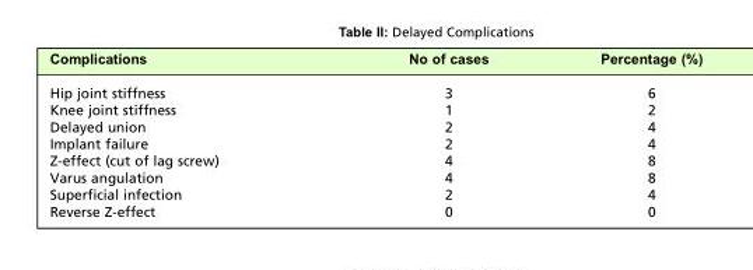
<table><thead><tr><td>Complications</td><td>No of cases</td><td>Percentage (%)</td></tr></thead><tbody><tr><td>Hip joint stiffness</td><td>3</td><td>6</td></tr><tr><td>Knee joint stiffness</td><td>1</td><td>2</td></tr><tr><td>Delayed union</td><td>2</td><td>4</td></tr><tr><td>Implant failure</td><td>2</td><td>4</td></tr><tr><td>Z-effect (cut of lag screw)</td><td>4</td><td>8</td></tr><tr><td>Varus angulation</td><td>4</td><td>8</td></tr><tr><td>Superficial infection</td><td>2</td><td>4</td></tr><tr><td>Reverse Z-effect</td><td>0</td><td>0</td></tr></tbody></table>